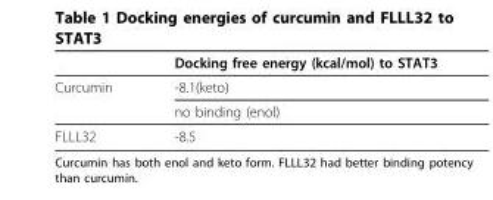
<table><thead><tr><td></td><td>Docking free energy (kcal/mol) to STAT3</td></tr></thead><tbody><tr><td rowspan="2">Curcumin</td><td>-8.1(keto)</td></tr><tr><td>no binding (enol)</td></tr><tr><td>FLLL32</td><td>-8.5</td></tr></tbody></table>